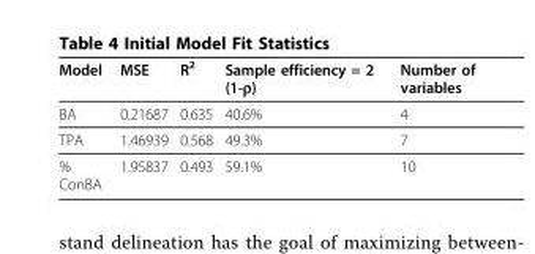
<table><thead><tr><td>Model</td><td>MSE</td><td>R<sup>2</sup></td><td>Sample efficiency = 2 (1-ρ)</td><td>Number of variables</td></tr></thead><tbody><tr><td>BA</td><td>0.21687</td><td>0.635</td><td>40.6%</td><td>4</td></tr><tr><td>TPA</td><td>1.46939</td><td>0.568</td><td>49.3%</td><td>7</td></tr><tr><td>% ConBA</td><td>1.95837</td><td>0.493</td><td>59.1%</td><td>10</td></tr></tbody></table>